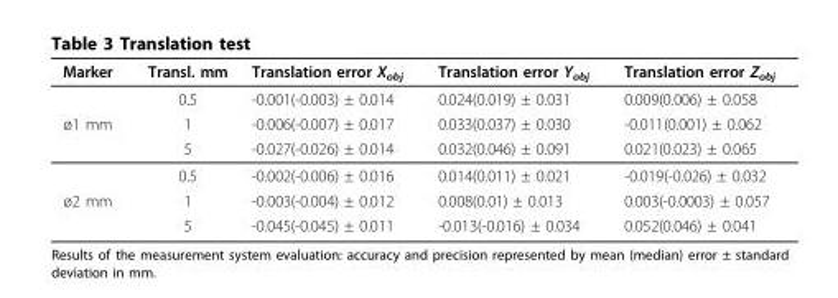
<table><thead><tr><td>Marker</td><td>Transl. mm</td><td>Translation error X<sub>obj</sub></td><td>Translation error Y<sub>obj</sub></td><td>Translation error Z<sub>obj</sub></td></tr></thead><tbody><tr><td></td><td>0.5</td><td>-0.001(-0.003) ± 0.014</td><td>0.024(0.019) ± 0.031</td><td>0.009(0.006) ± 0.058</td></tr><tr><td rowspan="3">ø1 mm</td><td>1</td><td>-0.006(-0.007) ± 0.017</td><td>0.033(0.037) ± 0.030</td><td>-0.011(0.001) ± 0.062</td></tr><tr><td>5</td><td>-0.027(-0.026) ± 0.014</td><td>0.032(0.046) ± 0.091</td><td>0.021(0.023) ± 0.065</td></tr><tr><td>0.5</td><td>-0.002(-0.006) ± 0.016</td><td>0.014(0.011) ± 0.021</td><td>-0.019(-0.026) ± 0.032</td></tr><tr><td rowspan="2">ø2 mm</td><td>1</td><td>-0.003(-0.004) ± 0.012</td><td>0.008(0.01) ± 0.013</td><td>0.003(-0.0003) ± 0.057</td></tr><tr><td>5</td><td>-0.045(-0.045) ± 0.011</td><td>-0.013(-0.016) ± 0.034</td><td>0.052(0.046) ± 0.041</td></tr></tbody></table>